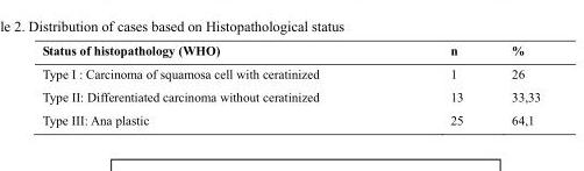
<table><thead><tr><td>Status of histopathology (WHO)</td><td>n</td><td>%</td></tr></thead><tbody><tr><td>Type I : Carcinoma of squamosa cell with ceratinized</td><td>1</td><td>26</td></tr><tr><td>Type II: Differentiated carcinoma without ceratinized</td><td>13</td><td>33,33</td></tr><tr><td>Type III: Ana plastic</td><td>25</td><td>64,1</td></tr></tbody></table>